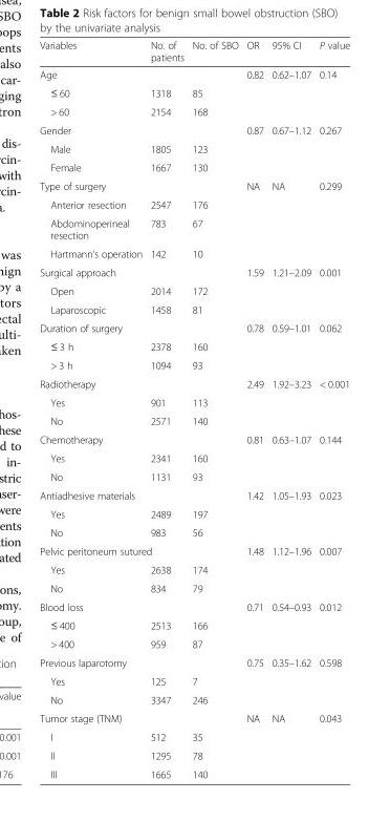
<table><thead><tr><td>Variables</td><td>No. of patients</td><td>No. of SBO</td><td>OR</td><td>95% CI</td><td>P value</td></tr></thead><tbody><tr><td colspan="3">Age</td><td>0.82</td><td>0.62–1.07</td><td>0.14</td></tr><tr><td>≤ 60</td><td>1318</td><td colspan="4">85</td></tr><tr><td>&gt; 60</td><td>2154</td><td colspan="4">168</td></tr><tr><td colspan="3">Gender</td><td>0.87</td><td>0.67–1.12</td><td>0.267</td></tr><tr><td>Male</td><td>1805</td><td colspan="4">123</td></tr><tr><td>Female</td><td>1667</td><td colspan="4">130</td></tr><tr><td colspan="3">Type of surgery</td><td>NA</td><td>NA</td><td>0.299</td></tr><tr><td>Anterior resection</td><td>2547</td><td colspan="4">176</td></tr><tr><td>Abdominoperineal resection</td><td>783</td><td colspan="4">67</td></tr><tr><td>Hartmann’s operation</td><td>142</td><td colspan="4">10</td></tr><tr><td colspan="3">Surgical approach</td><td>1.59</td><td>1.21–2.09</td><td>0.001</td></tr><tr><td>Open</td><td>2014</td><td colspan="4">172</td></tr><tr><td>Laparoscopic</td><td>1458</td><td colspan="4">81</td></tr><tr><td colspan="3">Duration of surgery</td><td>0.78</td><td>0.59–1.01</td><td>0.062</td></tr><tr><td>≤ 3 h</td><td>2378</td><td colspan="4">160</td></tr><tr><td>&gt; 3 h</td><td>1094</td><td colspan="4">93</td></tr><tr><td colspan="3">Radiotherapy</td><td>2.49</td><td>1.92–3.23</td><td>&lt; 0.001</td></tr><tr><td>Yes</td><td>901</td><td colspan="4">113</td></tr><tr><td>No</td><td>2571</td><td colspan="4">140</td></tr><tr><td colspan="3">Chemotherapy</td><td>0.81</td><td>0.63–1.07</td><td>0.144</td></tr><tr><td>Yes</td><td>2341</td><td colspan="4">160</td></tr><tr><td>No</td><td>1131</td><td colspan="4">93</td></tr><tr><td colspan="3">Antiadhesive materials</td><td>1.42</td><td>1.05–1.93</td><td>0.023</td></tr><tr><td>Yes</td><td>2489</td><td colspan="4">197</td></tr><tr><td>No</td><td>983</td><td colspan="4">56</td></tr><tr><td colspan="3">Pelvic peritoneum sutured</td><td>1.48</td><td>1.12–1.96</td><td>0.007</td></tr><tr><td>Yes</td><td>2638</td><td colspan="4">174</td></tr><tr><td>No</td><td>834</td><td colspan="4">79</td></tr><tr><td colspan="3">Blood loss</td><td>0.71</td><td>0.54–0.93</td><td>0.012</td></tr><tr><td>≤ 400</td><td>2513</td><td colspan="4">166</td></tr><tr><td>&gt; 400</td><td>959</td><td colspan="4">87</td></tr><tr><td colspan="3">Previous laparotomy</td><td>0.75</td><td>0.35–1.62</td><td>0.598</td></tr><tr><td>Yes</td><td>125</td><td colspan="4">7</td></tr><tr><td>No</td><td>3347</td><td colspan="4">246</td></tr><tr><td colspan="3">Tumor stage (TNM)</td><td>NA</td><td>NA</td><td>0.043</td></tr><tr><td>I</td><td>512</td><td colspan="4">35</td></tr><tr><td>II</td><td>1295</td><td colspan="4">78</td></tr><tr><td>III</td><td>1665</td><td colspan="4">140</td></tr></tbody></table>